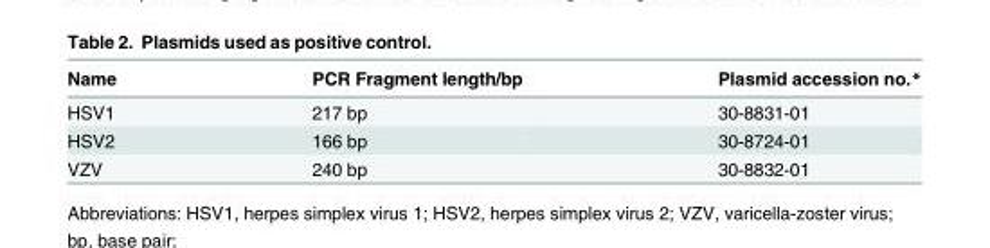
<table><thead><tr><td>Name</td><td>PCR Fragment length/bp</td><td>Plasmid accession no.*</td></tr></thead><tbody><tr><td>HSV1</td><td>217 bp</td><td>30-8831-01</td></tr><tr><td>HSV2</td><td>166 bp</td><td>30-8724-01</td></tr><tr><td>VZV</td><td>240 bp</td><td>30-8832-01</td></tr></tbody></table>